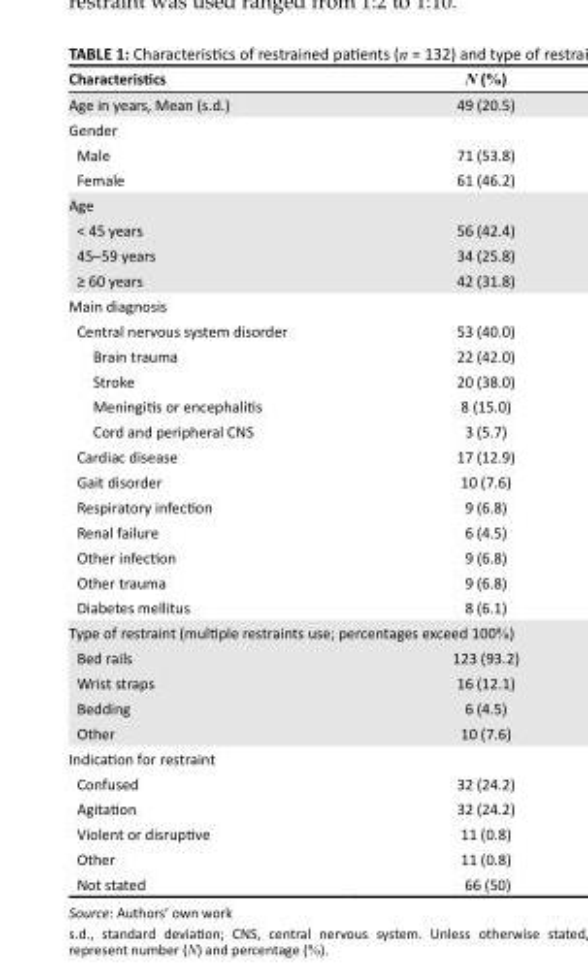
<table><thead><tr><td>Characteristics</td><td>N (%)</td></tr></thead><tbody><tr><td>Age in years, Mean (s.d.)</td><td>49 (20.5)</td></tr><tr><td colspan="2">Gender</td></tr><tr><td>Male</td><td>71 (53.8)</td></tr><tr><td>Female</td><td>61 (46.2)</td></tr><tr><td colspan="2">Age</td></tr><tr><td>&lt; 45 years</td><td>56 (42.4)</td></tr><tr><td>45–59 years</td><td>34 (25.8)</td></tr><tr><td>≥ 60 years</td><td>42 (31.8)</td></tr><tr><td colspan="2">Main diagnosis</td></tr><tr><td>Central nervous system disorder</td><td>53 (40.0)</td></tr><tr><td>Brain trauma</td><td>22 (42.0)</td></tr><tr><td>Stroke</td><td>20 (38.0)</td></tr><tr><td>Meningitis or encephalitis</td><td>8 (15.0)</td></tr><tr><td>Cord and peripheral CNS</td><td>3 (5.7)</td></tr><tr><td>Cardiac disease</td><td>17 (12.9)</td></tr><tr><td>Gait disorder</td><td>10 (7.6)</td></tr><tr><td>Respiratory infection</td><td>9 (6.8)</td></tr><tr><td>Renal failure</td><td>6 (4.5)</td></tr><tr><td>Other infection</td><td>9 (6.8)</td></tr><tr><td>Other trauma</td><td>9 (6.8)</td></tr><tr><td>Diabetes mellitus</td><td>8 (6.1)</td></tr><tr><td colspan="2">Type of restraint (multiple restraints use; percentages exceed 100%)</td></tr><tr><td>Bed rails</td><td>123 (93.2)</td></tr><tr><td>Wrist straps</td><td>16 (12.1)</td></tr><tr><td>Bedding</td><td>6 (4.5)</td></tr><tr><td>Other</td><td>10 (7.6)</td></tr><tr><td colspan="2">Indication for restraint</td></tr><tr><td>Confused</td><td>32 (24.2)</td></tr><tr><td>Agitation</td><td>32 (24.2)</td></tr><tr><td>Violent or disruptive</td><td>11 (0.8)</td></tr><tr><td>Other</td><td>11 (0.8)</td></tr><tr><td>Not stated</td><td>66 (50)</td></tr></tbody></table>